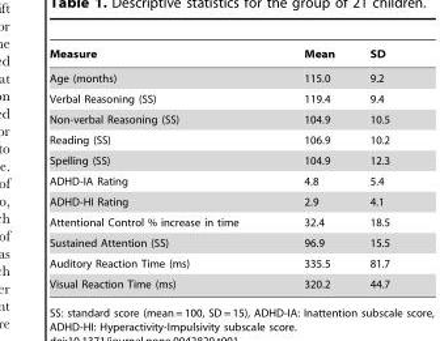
<table><thead><tr><td>Measure</td><td>Mean</td><td>SD</td></tr></thead><tbody><tr><td>Age (months)</td><td>115.0</td><td>9.2</td></tr><tr><td>Verbal Reasoning (SS)</td><td>119.4</td><td>9.4</td></tr><tr><td>Non-verbal Reasoning (SS)</td><td>104.9</td><td>10.5</td></tr><tr><td>Reading (SS)</td><td>106.9</td><td>10.2</td></tr><tr><td>Spelling (SS)</td><td>104.9</td><td>12.3</td></tr><tr><td>ADHD-IA Rating</td><td>4.8</td><td>5.4</td></tr><tr><td>ADHD-HI Rating</td><td>2.9</td><td>4.1</td></tr><tr><td>Attentional Control % increase in time</td><td>32.4</td><td>18.5</td></tr><tr><td>Sustained Attention (SS)</td><td>96.9</td><td>15.5</td></tr><tr><td>Auditory Reaction Time (ms)</td><td>335.5</td><td>81.7</td></tr><tr><td>Visual Reaction Time (ms)</td><td>320.2</td><td>44.7</td></tr></tbody></table>